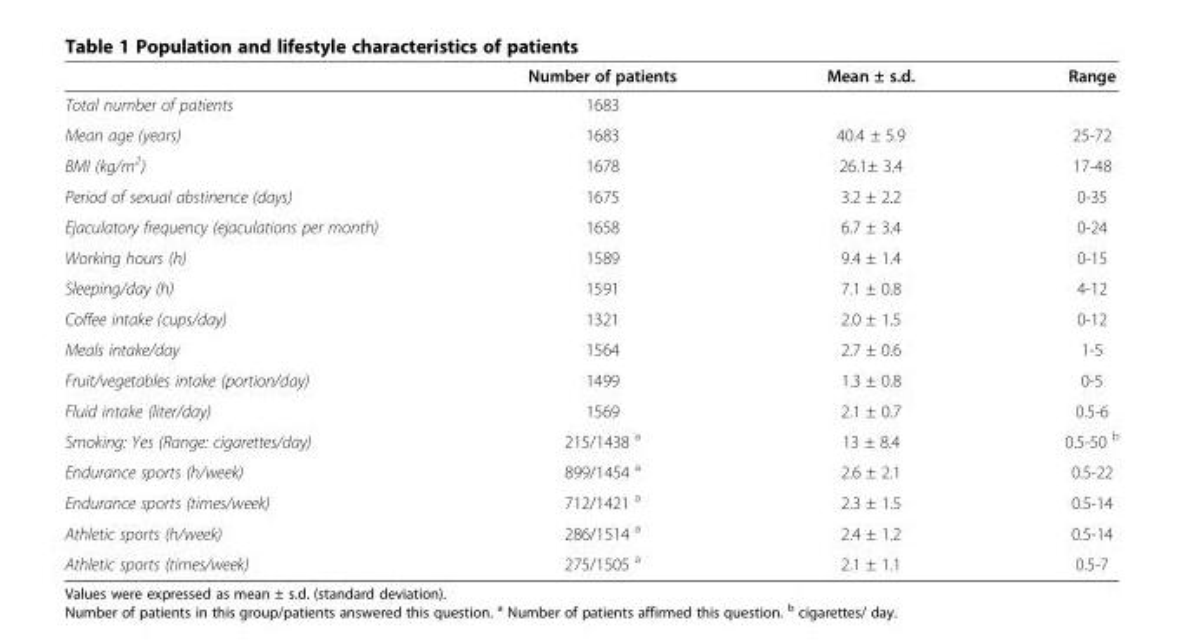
<table><thead><tr><td></td><td>Number of patients</td><td>Mean ± s.d.</td><td>Range</td></tr></thead><tbody><tr><td>Total number of patients</td><td>1683</td><td></td><td></td></tr><tr><td>Mean age (years)</td><td>1683</td><td>40.4 ± 5.9</td><td>25-72</td></tr><tr><td>BMI (kg/m<sup>2</sup>)</td><td>1678</td><td>26.1± 3.4</td><td>17-48</td></tr><tr><td>Period of sexual abstinence (days)</td><td>1675</td><td>3.2 ± 2.2</td><td>0-35</td></tr><tr><td>Ejaculatory frequency (ejaculations per month)</td><td>1658</td><td>6.7 ± 3.4</td><td>0-24</td></tr><tr><td>Working hours (h)</td><td>1589</td><td>9.4 ± 1.4</td><td>0-15</td></tr><tr><td>Sleeping/day (h)</td><td>1591</td><td>7.1 ± 0.8</td><td>4-12</td></tr><tr><td>Coffee intake (cups/day)</td><td>1321</td><td>2.0 ± 1.5</td><td>0-12</td></tr><tr><td>Meals intake/day</td><td>1564</td><td>2.7 ± 0.6</td><td>1-5</td></tr><tr><td>Fruit/vegetables intake (portion/day)</td><td>1499</td><td>1.3 ± 0.8</td><td>0-5</td></tr><tr><td>Fluid intake (liter/day)</td><td>1569</td><td>2.1 ± 0.7</td><td>0.5-6</td></tr><tr><td>Smoking: Yes (Range: cigarettes/day)</td><td>215/1438 <sup>a</sup></td><td>13 ± 8.4</td><td>0.5-50 <sup>b</sup></td></tr><tr><td>Endurance sports (h/week)</td><td>899/1454 <sup>a</sup></td><td>2.6 ± 2.1</td><td>0.5-22</td></tr><tr><td>Endurance sports (times/week)</td><td>712/1421 <sup>a</sup></td><td>2.3 ± 1.5</td><td>0.5-14</td></tr><tr><td>Athletic sports (h/week)</td><td>286/1514 <sup>a</sup></td><td>2.4 ± 1.2</td><td>0.5-14</td></tr><tr><td>Athletic sports (times/week)</td><td>275/1505 <sup>a</sup></td><td>2.1 ± 1.1</td><td>0.5-7</td></tr></tbody></table>